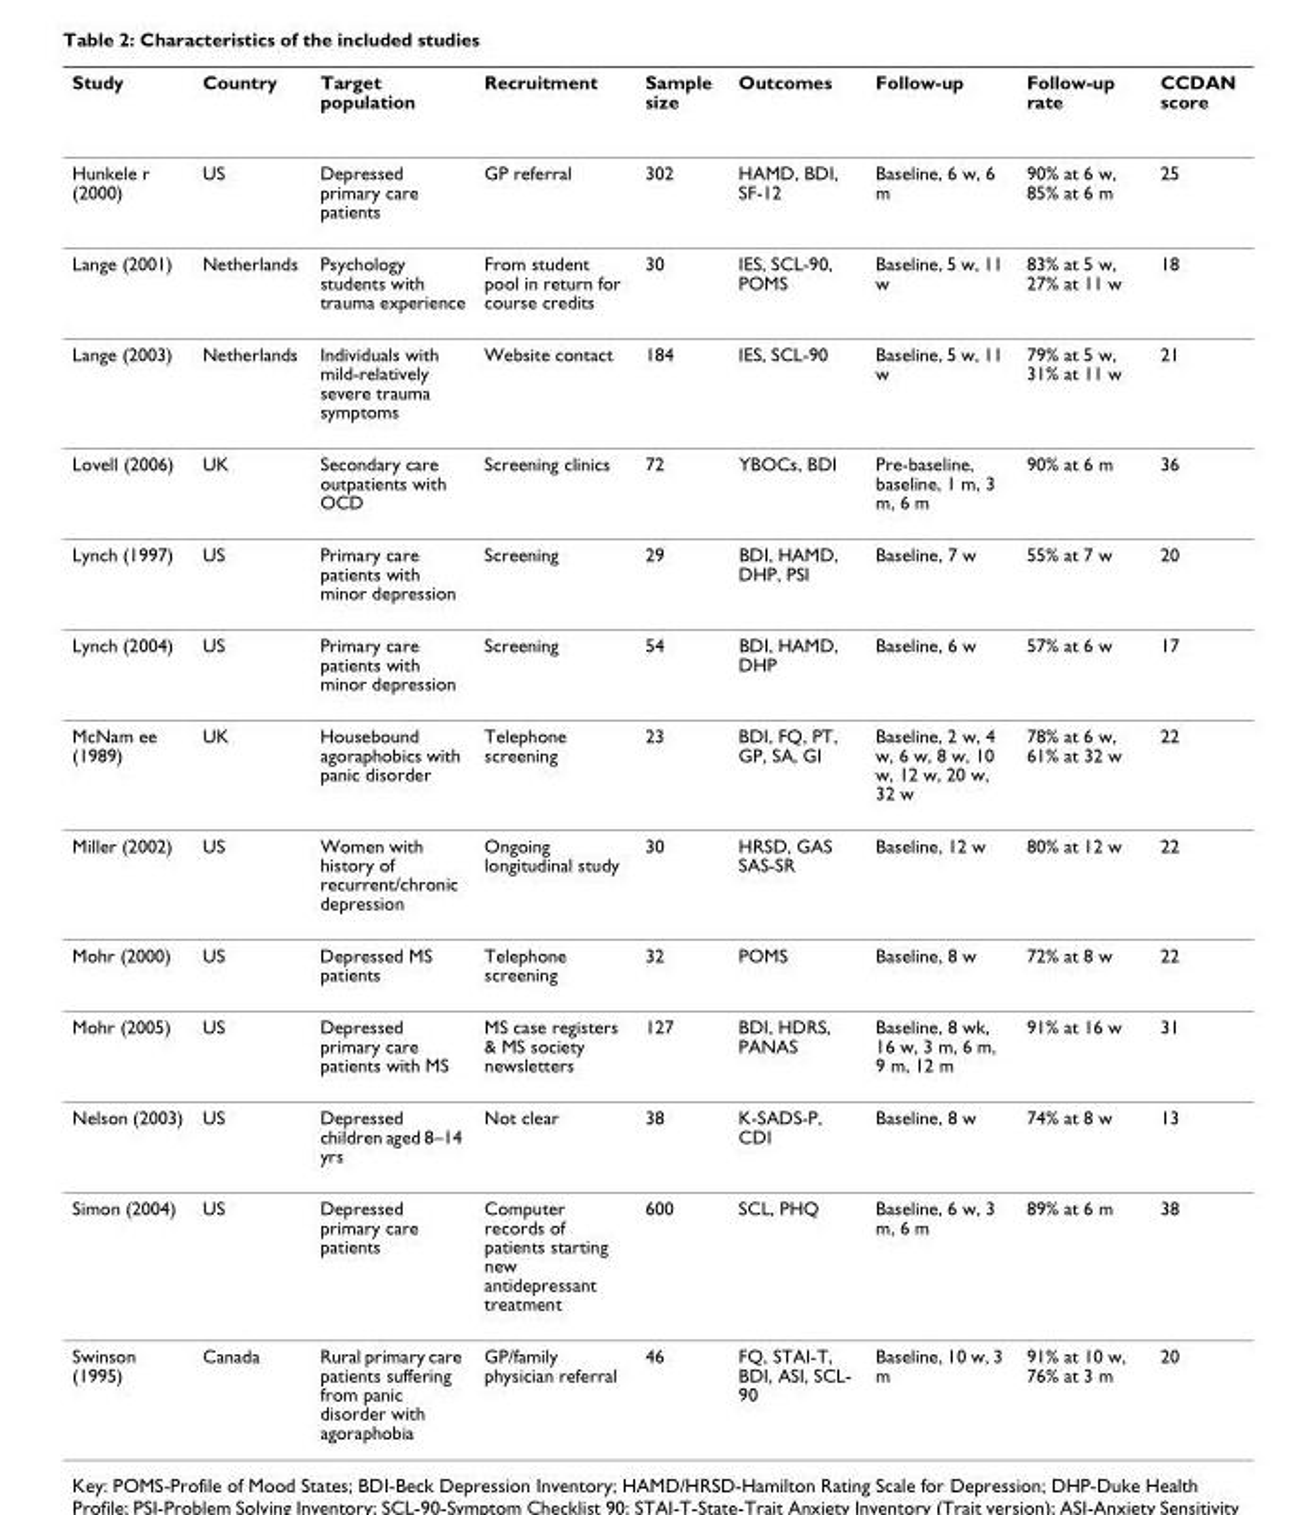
<table><thead><tr><td>Study</td><td>Country</td><td>Target population</td><td>Recruitment</td><td>Sample size</td><td>Outcomes</td><td>Follow-up</td><td>Follow-up rate</td><td>CCDAN score</td></tr></thead><tbody><tr><td>Hunkele r (2000)</td><td>US</td><td>Depressed primary care patients</td><td>GP referral</td><td>302</td><td>HAMD, BDI, SF-12</td><td>Baseline, 6 w, 6 m</td><td>90% at 6 w, 85% at 6 m</td><td>25</td></tr><tr><td>Lange (2001)</td><td>Netherlands</td><td>Psychology students with trauma experience</td><td>From student pool in return for course credits</td><td>30</td><td>IES, SCL-90, POMS</td><td>Baseline, 5 w, 11 w</td><td>83% at 5 w, 27% at 11 w</td><td>18</td></tr><tr><td>Lange (2003)</td><td>Netherlands</td><td>Individuals with mild-relatively severe trauma symptoms</td><td>Website contact</td><td>184</td><td>IES, SCL-90</td><td>Baseline, 5 w, 11 w</td><td>79% at 5 w, 31% at 11 w</td><td>21</td></tr><tr><td>Lovell (2006)</td><td>UK</td><td>Secondary care outpatients with OCD</td><td>Screening clinics</td><td>72</td><td>YBOCs, BDI</td><td>Pre-baseline, baseline, 1 m, 3 m, 6 m</td><td>90% at 6 m</td><td>36</td></tr><tr><td>Lynch (1997)</td><td>US</td><td>Primary care patients with minor depression</td><td>Screening</td><td>29</td><td>BDI, HAMD, DHP, PSI</td><td>Baseline, 7 w</td><td>55% at 7 w</td><td>20</td></tr><tr><td>Lynch (2004)</td><td>US</td><td>Primary care patients with minor depression</td><td>Screening</td><td>54</td><td>BDI, HAMD, DHP</td><td>Baseline, 6 w</td><td>57% at 6 w</td><td>17</td></tr><tr><td>McNam ee (1989)</td><td>UK</td><td>Housebound agoraphobics with panic disorder</td><td>Telephone screening</td><td>23</td><td>BDI, FQ, PT, GP, SA, GI</td><td>Baseline, 2 w, 4 w, 6 w, 8 w, 10 w, 12 w, 20 w, 32 w</td><td>78% at 6 w, 61% at 32 w</td><td>22</td></tr><tr><td>Miller (2002)</td><td>US</td><td>Women with history of recurrent/chronic depression</td><td>Ongoing longitudinal study</td><td>30</td><td>HRSD, GAS SAS-SR</td><td>Baseline, 12 w</td><td>80% at 12 w</td><td>22</td></tr><tr><td>Mohr (2000)</td><td>US</td><td>Depressed MS patients</td><td>Telephone screening</td><td>32</td><td>POMS</td><td>Baseline, 8 w</td><td>72% at 8 w</td><td>22</td></tr><tr><td>Mohr (2005)</td><td>US</td><td>Depressed primary care patients with MS</td><td>MS case registers &amp; MS society newsletters</td><td>127</td><td>BDI, HDRS, PANAS</td><td>Baseline, 8 wk, 16 w, 3 m, 6 m, 9 m, 12 m</td><td>91% at 16 w</td><td>31</td></tr><tr><td>Nelson (2003)</td><td>US</td><td>Depressed children aged 8–14 yrs</td><td>Not clear</td><td>38</td><td>K-SADS-P, CDI</td><td>Baseline, 8 w</td><td>74% at 8 w</td><td>13</td></tr><tr><td>Simon (2004)</td><td>US</td><td>Depressed primary care patients</td><td>Computer records of patients starting new antidepressant treatment</td><td>600</td><td>SCL, PHQ</td><td>Baseline, 6 w, 3 m, 6 m</td><td>89% at 6 m</td><td>38</td></tr><tr><td>Swinson (1995)</td><td>Canada</td><td>Rural primary care patients suffering from panic disorder with agoraphobia</td><td>GP/family physician referral</td><td>46</td><td>FQ, STAI-T, BDI, ASI, SCL- 90</td><td>Baseline, 10 w, 3 m</td><td>91% at 10 w, 76% at 3 m</td><td>20</td></tr></tbody></table>